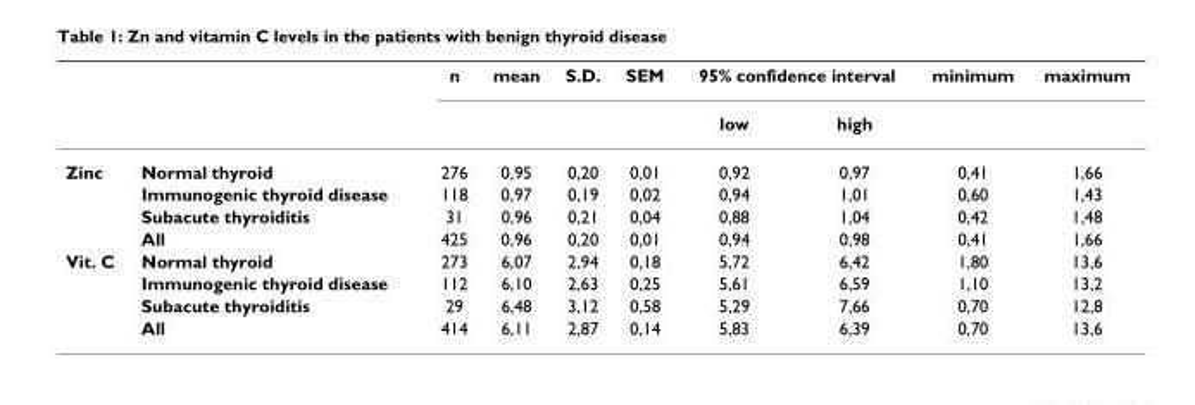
<table><thead><tr><td rowspan="2"></td><td rowspan="2"></td><td rowspan="2">n</td><td rowspan="2">mean</td><td rowspan="2">S.D.</td><td rowspan="2">SEM</td><td colspan="2">95% confidence interval</td><td rowspan="2">minimum</td><td rowspan="2">maximum</td></tr><tr><td>low</td><td>high</td></tr></thead><tbody><tr><td rowspan="4">Zinc</td><td>Normal thyroid</td><td>276</td><td>0,95</td><td>0,20</td><td>0,01</td><td>0,92</td><td>0,97</td><td>0,41</td><td>1,66</td></tr><tr><td>Immunogenic thyroid disease</td><td>118</td><td>0,97</td><td>0,19</td><td>0,02</td><td>0,94</td><td>1,01</td><td>0,60</td><td>1,43</td></tr><tr><td>Subacute thyroiditis</td><td>31</td><td>0,96</td><td>0,21</td><td>0,04</td><td>0,88</td><td>1,04</td><td>0,42</td><td>1,48</td></tr><tr><td>All</td><td>425</td><td>0,96</td><td>0,20</td><td>0,01</td><td>0,94</td><td>0,98</td><td>0,41</td><td>1,66</td></tr><tr><td rowspan="4">Vit. C</td><td>Normal thyroid</td><td>273</td><td>6,07</td><td>2,94</td><td>0,18</td><td>5,72</td><td>6,42</td><td>1,80</td><td>13,6</td></tr><tr><td>Immunogenic thyroid disease</td><td>112</td><td>6,10</td><td>2,63</td><td>0,25</td><td>5,61</td><td>6,59</td><td>1,10</td><td>13,2</td></tr><tr><td>Subacute thyroiditis</td><td>29</td><td>6,48</td><td>3,12</td><td>0,58</td><td>5,29</td><td>7,66</td><td>0,70</td><td>12,8</td></tr><tr><td>All</td><td>414</td><td>6,11</td><td>2,87</td><td>0,14</td><td>5,83</td><td>6,39</td><td>0,70</td><td>13,6</td></tr></tbody></table>